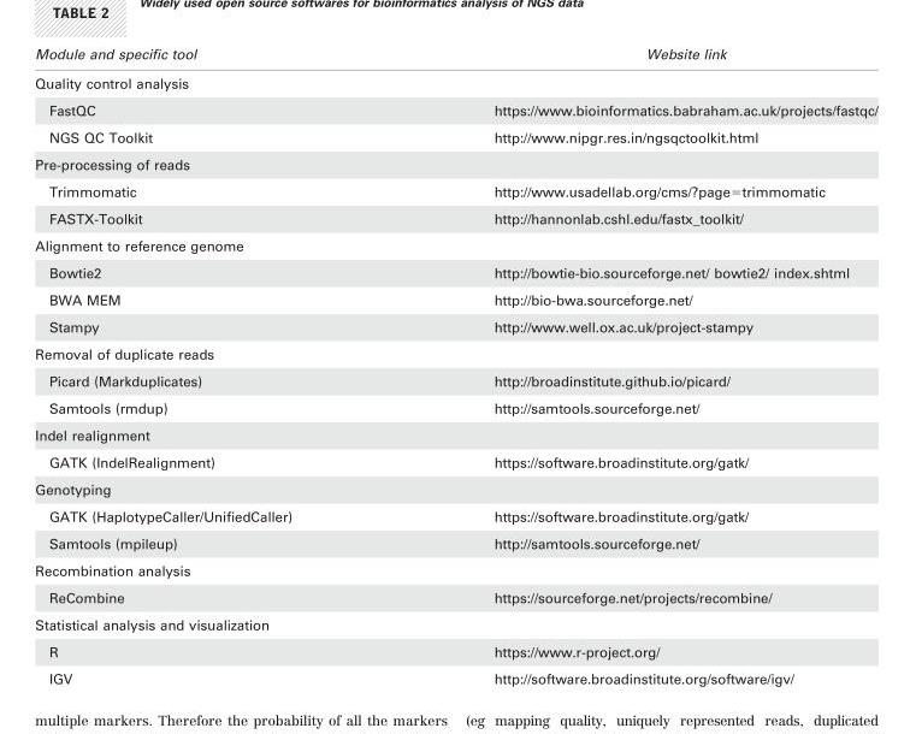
<table><thead><tr><td>Module and specific tool</td><td>Website link</td></tr></thead><tbody><tr><td colspan="2">Quality control analysis</td></tr><tr><td>FastQC</td><td>https://www.bioinformatics.babraham.ac.uk/projects/fastqc/</td></tr><tr><td>NGS QC Toolkit</td><td>http://www.nipgr.res.in/ngsqctoolkit.html</td></tr><tr><td colspan="2">Pre-processing of reads</td></tr><tr><td>Trimmomatic</td><td>http://www.usadellab.org/cms/?page=trimmomatic</td></tr><tr><td>FASTX-Toolkit</td><td>http://hannonlab.cshl.edu/fastx_toolkit/</td></tr><tr><td colspan="2">Alignment to reference genome</td></tr><tr><td>Bowtie2</td><td>http://bowtie-bio.sourceforge.net/ bowtie2/ index.shtml</td></tr><tr><td>BWA MEM</td><td>http://bio-bwa.sourceforge.net/</td></tr><tr><td>Stampy</td><td>http://www.well.ox.ac.uk/project-stampy</td></tr><tr><td colspan="2">Removal of duplicate reads</td></tr><tr><td>Picard (Markduplicates)</td><td>http://broadinstitute.github.io/picard/</td></tr><tr><td>Samtools (rmdup)</td><td>http://samtools.sourceforge.net/</td></tr><tr><td colspan="2">Indel realignment</td></tr><tr><td>GATK (IndelRealignment)</td><td>https://software.broadinstitute.org/gatk/</td></tr><tr><td colspan="2">Genotyping</td></tr><tr><td>GATK (HaplotypeCaller/UnifiedCaller)</td><td>https://software.broadinstitute.org/gatk/</td></tr><tr><td>Samtools (mpileup)</td><td>http://samtools.sourceforge.net/</td></tr><tr><td colspan="2">Recombination analysis</td></tr><tr><td>ReCombine</td><td>https://sourceforge.net/projects/recombine/</td></tr><tr><td colspan="2">Statistical analysis and visualization</td></tr><tr><td>R</td><td>https://www.r-project.org/</td></tr><tr><td>IGV</td><td>http://software.broadinstitute.org/software/igv/</td></tr></tbody></table>